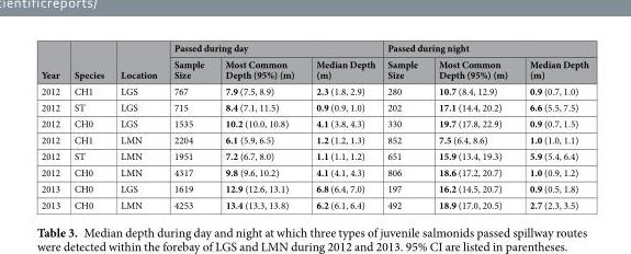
<table><thead><tr><td rowspan="2">Year</td><td rowspan="2">Species</td><td rowspan="2">Location</td><td colspan="3">Passed during day</td><td colspan="3">Passed during night</td></tr><tr><td>Sample Size</td><td>Most Common Depth (95%) (m)</td><td>Median Depth (m)</td><td>Sample Size</td><td>Most Common Depth (95%) (m)</td><td>Median Depth (m)</td></tr></thead><tbody><tr><td>2012</td><td>CH1</td><td>LGS</td><td>767</td><td>7.9 (7.5, 8.9)</td><td>2.3 (1.8, 2.9)</td><td>280</td><td>10.7 (8.4, 12.9)</td><td>0.9 (0.7, 1.0)</td></tr><tr><td>2012</td><td>ST</td><td>LGS</td><td>715</td><td>8.4 (7.1, 11.5)</td><td>0.9 (0.9, 1.0)</td><td>202</td><td>17.1 (14.4, 20.2)</td><td>6.6 (5.5, 7.5)</td></tr><tr><td>2012</td><td>CH0</td><td>LGS</td><td>1535</td><td>10.2 (10.0, 10.8)</td><td>4.1 (3.8, 4.3)</td><td>330</td><td>19.7 (17.8, 22.9)</td><td>0.9 (0.7, 1.5)</td></tr><tr><td>2012</td><td>CH1</td><td>LMN</td><td>2204</td><td>6.1 (5.9, 6.5)</td><td>1.2 (1.2, 1.3)</td><td>852</td><td>7.5 (6.4, 8.6)</td><td>1.0 (1.0, 1.1)</td></tr><tr><td>2012</td><td>ST</td><td>LMN</td><td>1951</td><td>7.2 (6.7, 8.0)</td><td>1.1 (1.1, 1.2)</td><td>651</td><td>15.9 (13.4, 19.3)</td><td>5.9 (5.4, 6.4)</td></tr><tr><td>2012</td><td>CH0</td><td>LMN</td><td>4317</td><td>9.8 (9.6, 10.2)</td><td>4.1 (4.1, 4.3)</td><td>806</td><td>18.6 (17.2, 20.7)</td><td>1.0 (0.9, 1.2)</td></tr><tr><td>2013</td><td>CH0</td><td>LGS</td><td>1619</td><td>12.9 (12.6, 13.1)</td><td>6.8 (6.4, 7.0)</td><td>197</td><td>16.2 (14.5, 20.7)</td><td>0.9 (0.5, 1.8)</td></tr><tr><td>2013</td><td>CH0</td><td>LMN</td><td>4253</td><td>13.4 (13.3, 13.8)</td><td>6.2 (6.1, 6.4)</td><td>492</td><td>18.9 (17.0, 20.5)</td><td>2.7 (2.3, 3.5)</td></tr></tbody></table>